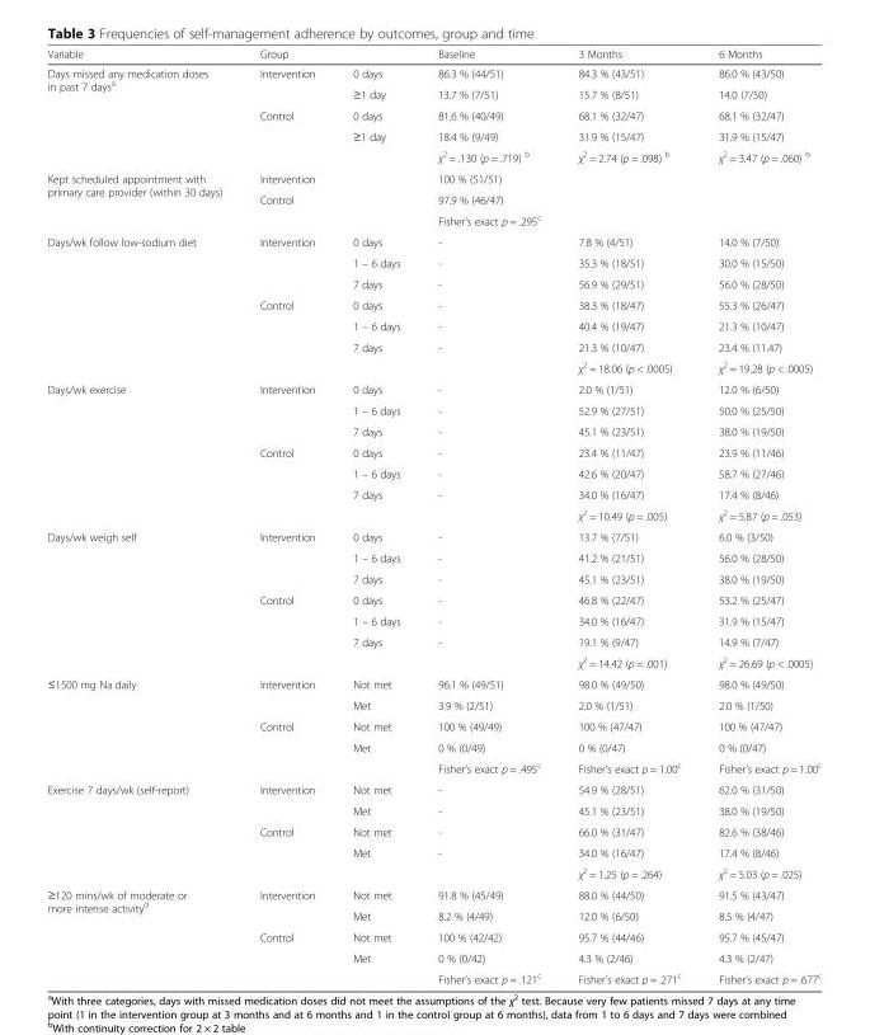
<table><thead><tr><td>Variable</td><td>Group</td><td></td><td>Baseline</td><td>3 Months</td><td>6 Months</td></tr></thead><tbody><tr><td rowspan="5">Days missed any medication doses in past 7 days<sup>a</sup></td><td rowspan="2">Intervention</td><td>0 days</td><td>86.3 % (44/51)</td><td>84.3 % (43/51)</td><td>86.0 % (43/50)</td></tr><tr><td>≥1 day</td><td>13.7 % (7/51)</td><td>15.7 % (8/51)</td><td>14.0 (7/50)</td></tr><tr><td rowspan="3">Control</td><td>0 days</td><td>81.6 % (40/49)</td><td>68.1 % (32/47)</td><td>68.1 % (32/47)</td></tr><tr><td>≥1 day</td><td>18.4 % (9/49)</td><td>31.9 % (15/47)</td><td>31.9 % (15/47)</td></tr><tr><td></td><td>χ<sup>2</sup> = .130 (p = .719) <sup>b</sup></td><td>χ<sup>2</sup> = 2.74 (p = .098) <sup>b</sup></td><td>χ<sup>2</sup> = 3.47 (p = .060) <sup>b</sup></td></tr><tr><td rowspan="3">Kept scheduled appointment with primary care provider (within 30 days)</td><td>Intervention</td><td></td><td>100 % (51/51)</td><td></td><td></td></tr><tr><td rowspan="2">Control</td><td></td><td>97.9 % (46/47)</td><td></td><td></td></tr><tr><td></td><td>Fisher’s exact p = .295<sup>c</sup></td><td></td><td></td></tr><tr><td rowspan="7">Days/wk follow low-sodium diet</td><td rowspan="3">Intervention</td><td>0 days</td><td>-</td><td>7.8 % (4/51)</td><td>14.0 % (7/50)</td></tr><tr><td>1 – 6 days</td><td>-</td><td>35.3 % (18/51)</td><td>30.0 % (15/50)</td></tr><tr><td>7 days</td><td>-</td><td>56.9 % (29/51)</td><td>56.0 % (28/50)</td></tr><tr><td rowspan="4">Control</td><td>0 days</td><td>-</td><td>38.3 % (18/47)</td><td>55.3 % (26/47)</td></tr><tr><td>1 – 6 days</td><td>-</td><td>40.4 % (19/47)</td><td>21.3 % (10/47)</td></tr><tr><td>7 days</td><td>-</td><td>21.3 % (10/47)</td><td>23.4 % (11.47)</td></tr><tr><td></td><td></td><td>χ<sup>2</sup> = 18.06 (p &lt; .0005)</td><td>χ<sup>2</sup> = 19.28 (p &lt; .0005)</td></tr><tr><td rowspan="7">Days/wk exercise</td><td rowspan="3">Intervention</td><td>0 days</td><td>-</td><td>2.0 % (1/51)</td><td>12.0 % (6/50)</td></tr><tr><td>1 – 6 days</td><td>-</td><td>52.9 % (27/51)</td><td>50.0 % (25/50)</td></tr><tr><td>7 days</td><td>-</td><td>45.1 % (23/51)</td><td>38.0 % (19/50)</td></tr><tr><td rowspan="4">Control</td><td>0 days</td><td>-</td><td>23.4 % (11/47)</td><td>23.9 % (11/46)</td></tr><tr><td>1 – 6 days</td><td>-</td><td>42.6 % (20/47)</td><td>58.7 % (27/46)</td></tr><tr><td>7 days</td><td>-</td><td>34.0 % (16/47)</td><td>17.4 % (8/46)</td></tr><tr><td></td><td></td><td>χ<sup>2</sup> = 10.49 (p = .005)</td><td>χ<sup>2</sup> = 5.87 (p = .053)</td></tr><tr><td rowspan="7">Days/wk weigh self</td><td rowspan="3">Intervention</td><td>0 days</td><td>-</td><td>13.7 % (7/51)</td><td>6.0 % (3/50)</td></tr><tr><td>1 – 6 days</td><td>-</td><td>41.2 % (21/51)</td><td>56.0 % (28/50)</td></tr><tr><td>7 days</td><td>-</td><td>45.1 % (23/51)</td><td>38.0 % (19/50)</td></tr><tr><td rowspan="4">Control</td><td>0 days</td><td>-</td><td>46.8 % (22/47)</td><td>53.2 % (25/47)</td></tr><tr><td>1 – 6 days</td><td>-</td><td>34.0 % (16/47)</td><td>31.9 % (15/47)</td></tr><tr><td>7 days</td><td>-</td><td>19.1 % (9/47)</td><td>14.9 % (7/47)</td></tr><tr><td></td><td></td><td>χ<sup>2</sup> = 14.42 (p = .001)</td><td>χ<sup>2</sup> = 26.69 (p &lt; .0005)</td></tr><tr><td rowspan="5">≤1500 mg Na daily</td><td rowspan="2">Intervention</td><td>Not met</td><td>96.1 % (49/51)</td><td>98.0 % (49/50)</td><td>98.0 % (49/50)</td></tr><tr><td>Met</td><td>3.9 % (2/51)</td><td>2.0 % (1/51)</td><td>2.0 % (1/50)</td></tr><tr><td rowspan="3">Control</td><td>Not met</td><td>100 % (49/49)</td><td>100 % (47/47)</td><td>100 % (47/47)</td></tr><tr><td>Met</td><td>0 % (0/49)</td><td>0 % (0/47)</td><td>0 % (0/47)</td></tr><tr><td></td><td>Fisher’s exact p = .495<sup>c</sup></td><td>Fisher’s exact p = 1.00<sup>c</sup></td><td>Fisher’s exact p = 1.00<sup>c</sup></td></tr><tr><td rowspan="5">Exercise 7 days/wk (self-report)</td><td rowspan="2">Intervention</td><td>Not met</td><td>-</td><td>54.9 % (28/51)</td><td>62.0 % (31/50)</td></tr><tr><td>Met</td><td>-</td><td>45.1 % (23/51)</td><td>38.0 % (19/50)</td></tr><tr><td rowspan="3">Control</td><td>Not met</td><td>-</td><td>66.0 % (31/47)</td><td>82.6 % (38/46)</td></tr><tr><td>Met</td><td>-</td><td>34.0 % (16/47)</td><td>17.4 % (8/46)</td></tr><tr><td></td><td></td><td>χ<sup>2</sup> = 1.25 (p = .264)</td><td>χ<sup>2</sup> = 5.03 (p = .025)</td></tr><tr><td rowspan="5">≥120 mins/wk of moderate or more intense activity<sup>d</sup></td><td rowspan="2">Intervention</td><td>Not met</td><td>91.8 % (45/49)</td><td>88.0 % (44/50)</td><td>91.5 % (43/47)</td></tr><tr><td>Met</td><td>8.2 % (4/49)</td><td>12.0 % (6/50)</td><td>8.5 % (4/47)</td></tr><tr><td rowspan="3">Control</td><td>Not met</td><td>100 % (42/42)</td><td>95.7 % (44/46)</td><td>95.7 % (45/47)</td></tr><tr><td>Met</td><td>0 % (0/42)</td><td>4.3 % (2/46)</td><td>4.3 % (2/47)</td></tr><tr><td></td><td>Fisher’s exact p = .121<sup>c</sup></td><td>Fisher’s exact p = .271<sup>c</sup></td><td>Fisher’s exact p = .677<sup>c</sup></td></tr></tbody></table>